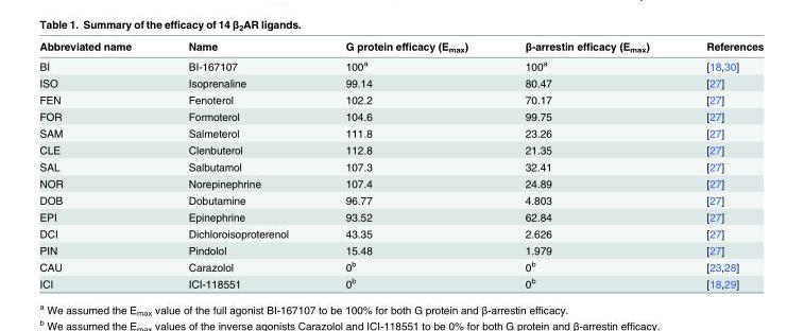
<table><thead><tr><td>Abbreviated name</td><td>Name</td><td>G protein efficacy (E<sub>max</sub>)</td><td>β-arrestin efficacy (E<sub>max</sub>)</td><td>References</td></tr></thead><tbody><tr><td>BI</td><td>BI-167107</td><td>100<sup>a</sup></td><td>100<sup>a</sup></td><td>[18,30]</td></tr><tr><td>ISO</td><td>Isoprenaline</td><td>99.14</td><td>80.47</td><td>[27]</td></tr><tr><td>FEN</td><td>Fenoterol</td><td>102.2</td><td>70.17</td><td>[27]</td></tr><tr><td>FOR</td><td>Formoterol</td><td>104.6</td><td>99.75</td><td>[27]</td></tr><tr><td>SAM</td><td>Salmeterol</td><td>111.8</td><td>23.26</td><td>[27]</td></tr><tr><td>CLE</td><td>Clenbuterol</td><td>112.8</td><td>21.35</td><td>[27]</td></tr><tr><td>SAL</td><td>Salbutamol</td><td>107.3</td><td>32.41</td><td>[27]</td></tr><tr><td>NOR</td><td>Norepinephrine</td><td>107.4</td><td>24.89</td><td>[27]</td></tr><tr><td>DOB</td><td>Dobutamine</td><td>96.77</td><td>4.803</td><td>[27]</td></tr><tr><td>EPI</td><td>Epinephrine</td><td>93.52</td><td>62.84</td><td>[27]</td></tr><tr><td>DCI</td><td>Dichloroisoproterenol</td><td>43.35</td><td>2.626</td><td>[27]</td></tr><tr><td>PIN</td><td>Pindolol</td><td>15.48</td><td>1.979</td><td>[27]</td></tr><tr><td>CAU</td><td>Carazolol</td><td>0<sup>b</sup></td><td>0<sup>b</sup></td><td>[23,28]</td></tr><tr><td>ICI</td><td>ICI-118551</td><td>0<sup>b</sup></td><td>0<sup>b</sup></td><td>[18,29]</td></tr></tbody></table>